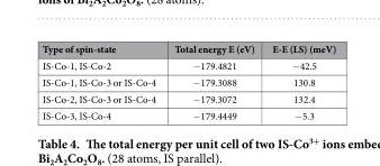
<table><thead><tr><td>Type of spin-state</td><td>Total energy E (eV)</td><td>E-E (LS) (meV)</td></tr></thead><tbody><tr><td>IS-Co-1, IS-Co-2</td><td>− 179.4821</td><td>− 42.5</td></tr><tr><td>IS-Co-1, IS-Co-3 or IS-Co-4</td><td>− 179.3088</td><td>130.8</td></tr><tr><td>IS-Co-2, IS-Co-3 or IS-Co-4</td><td>− 179.3072</td><td>132.4</td></tr><tr><td>IS-Co-3, IS-Co-4</td><td>− 179.4449</td><td>− 5.3</td></tr></tbody></table>